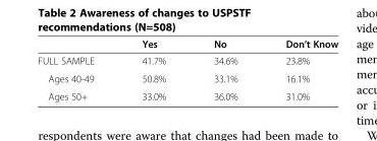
<table><thead><tr><td></td><td>Yes</td><td>No</td><td>Don’t Know</td></tr></thead><tbody><tr><td>FULL SAMPLE</td><td>41.7%</td><td>34.6%</td><td>23.8%</td></tr><tr><td>Ages 40-49</td><td>50.8%</td><td>33.1%</td><td>16.1%</td></tr><tr><td>Ages 50+</td><td>33.0%</td><td>36.0%</td><td>31.0%</td></tr></tbody></table>